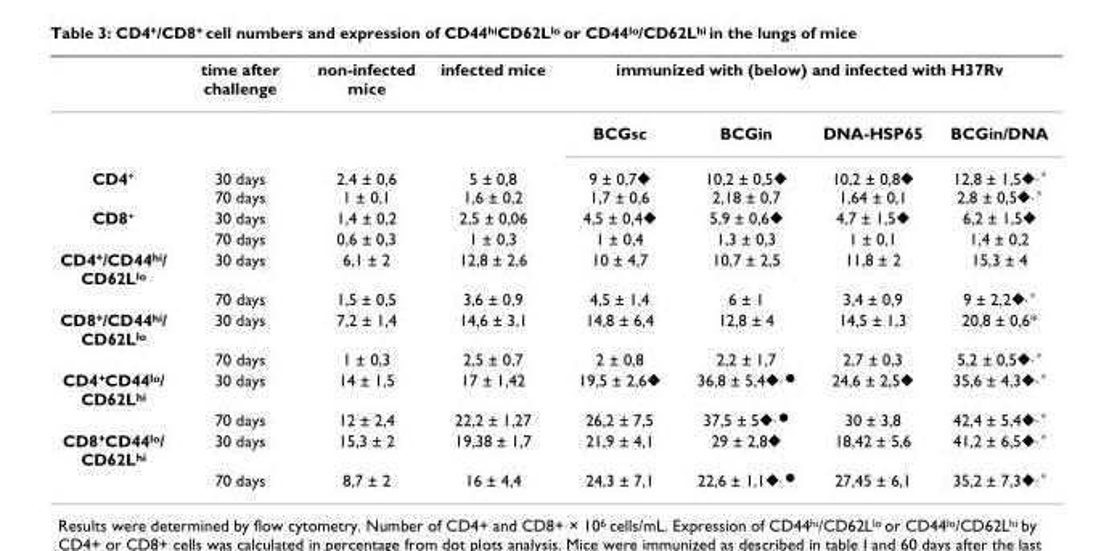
<table><thead><tr><td rowspan="2"></td><td rowspan="2">time after challenge</td><td rowspan="2">non-infected mice</td><td rowspan="2">infected mice</td><td colspan="4">immunized with (below) and infected with H37Rv</td></tr><tr><td>BCGsc</td><td>BCGin</td><td>DNA-HSP65</td><td>BCGin/DNA</td></tr></thead><tbody><tr><td>CD4<sup>+</sup></td><td>30 days 70 days</td><td>2.4 ± 0,6 1 ± 0,1</td><td>5 ± 0,8 1,6 ± 0,2</td><td>9 ± 0,7<sup>◆</sup> 1,7 ± 0,6</td><td>10,2 ± 0,5<sup>◆</sup> 2,18 ± 0,7</td><td>10,2 ± 0,8<sup>◆</sup> 1,64 ± 0,1</td><td>12,8 ± 1,5<sup>◆, *</sup> 2,8 ± 0,5<sup>◆, *</sup></td></tr><tr><td rowspan="2">CD8<sup>+</sup></td><td>30 days</td><td>1,4 ± 0,2</td><td>2,5 ± 0,06</td><td>4,5 ± 0,4<sup>◆</sup></td><td>5,9 ± 0,6<sup>◆</sup></td><td>4,7 ± 1,5<sup>◆</sup></td><td>6,2 ± 1,5<sup>◆</sup></td></tr><tr><td>70 days</td><td>0,6 ± 0,3</td><td>1 ± 0,3</td><td>1 ± 0,4</td><td>1,3 ± 0,3</td><td>1 ± 0,1</td><td>1,4 ± 0,2</td></tr><tr><td rowspan="2">CD4<sup>+</sup>/CD44<sup>hi</sup>/ CD62L<sup>lo</sup></td><td>30 days</td><td>6,1 ± 2</td><td>12,8 ± 2,6</td><td>10 ± 4,7</td><td>10,7 ± 2,5</td><td>11,8 ± 2</td><td>15,3 ± 4</td></tr><tr><td>70 days</td><td>1,5 ± 0,5</td><td>3,6 ± 0,9</td><td>4,5 ± 1,4</td><td>6 ± 1</td><td>3,4 ± 0,9</td><td>9 ± 2,2<sup>◆, *</sup></td></tr><tr><td rowspan="2">CD8<sup>+</sup>/CD44<sup>hi</sup>/ CD62L<sup>lo</sup></td><td>30 days</td><td>7,2 ± 1,4</td><td>14,6 ± 3,1</td><td>14,8 ± 6,4</td><td>12,8 ± 4</td><td>14,5 ± 1,3</td><td>20,8 ± 0,6*</td></tr><tr><td>70 days</td><td>1 ± 0,3</td><td>2,5 ± 0,7</td><td>2 ± 0,8</td><td>2,2 ± 1,7</td><td>2,7 ± 0,3</td><td>5,2 ± 0,5<sup>◆, *</sup></td></tr><tr><td rowspan="2">CD4<sup>+</sup>CD44<sup>lo</sup>/ CD62L<sup>hi</sup></td><td>30 days</td><td>14 ± 1,5</td><td>17 ± 1,42</td><td>19,5 ± 2,6<sup>◆</sup></td><td>36,8 ± 5,4<sup>◆, ●</sup></td><td>24,6 ± 2,5<sup>◆</sup></td><td>35,6 ± 4,3<sup>◆, *</sup></td></tr><tr><td>70 days</td><td>12 ± 2,4</td><td>22,2 ± 1,27</td><td>26,2 ± 7,5</td><td>37,5 ± 5<sup>◆, ●</sup></td><td>30 ± 3,8</td><td>42,4 ± 5,4<sup>◆, *</sup></td></tr><tr><td rowspan="2">CD8<sup>+</sup>CD44<sup>lo</sup>/ CD62L<sup>hi</sup></td><td>30 days</td><td>15,3 ± 2</td><td>19,38 ± 1,7</td><td>21,9 ± 4,1</td><td>29 ± 2,8<sup>◆</sup></td><td>18,42 ± 5,6</td><td>41,2 ± 6,5<sup>◆, *</sup></td></tr><tr><td>70 days</td><td>8,7 ± 2</td><td>16 ± 4,4</td><td>24,3 ± 7,1</td><td>22,6 ± 1,1<sup>◆, ●</sup></td><td>27,45 ± 6,1</td><td>35,2 ± 7,3<sup>◆, *</sup></td></tr></tbody></table>